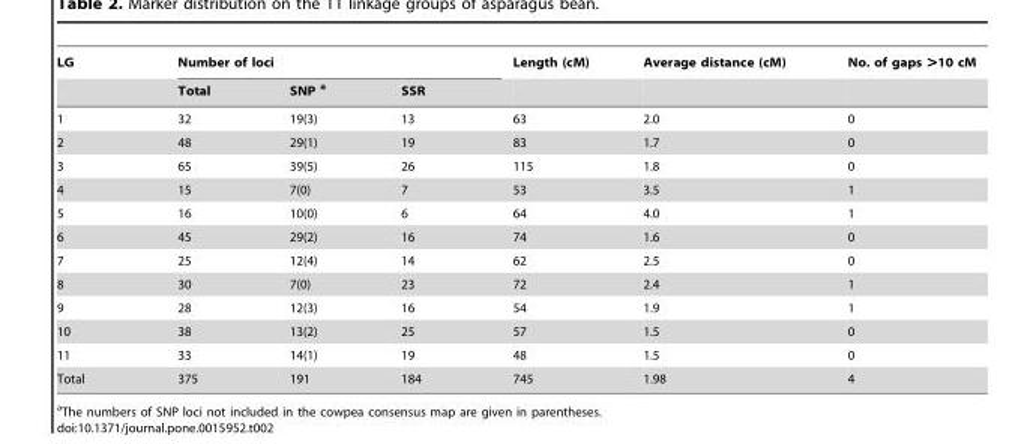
<table><thead><tr><td rowspan="2">LG</td><td colspan="3">Number of loci</td><td rowspan="2">Length (cM)</td><td rowspan="2">Average distance (cM)</td><td rowspan="2">No. of gaps &gt;10 cM</td></tr><tr><td>Total</td><td>SNP a</td><td>SSR</td></tr></thead><tbody><tr><td>1</td><td>32</td><td>19(3)</td><td>13</td><td>63</td><td>2.0</td><td>0</td></tr><tr><td>2</td><td>48</td><td>29(1)</td><td>19</td><td>83</td><td>1.7</td><td>0</td></tr><tr><td>3</td><td>65</td><td>39(5)</td><td>26</td><td>115</td><td>1.8</td><td>0</td></tr><tr><td>4</td><td>15</td><td>7(0)</td><td>7</td><td>53</td><td>3.5</td><td>1</td></tr><tr><td>5</td><td>16</td><td>10(0)</td><td>6</td><td>64</td><td>4.0</td><td>1</td></tr><tr><td>6</td><td>45</td><td>29(2)</td><td>16</td><td>74</td><td>1.6</td><td>0</td></tr><tr><td>7</td><td>25</td><td>12(4)</td><td>14</td><td>62</td><td>2.5</td><td>0</td></tr><tr><td>8</td><td>30</td><td>7(0)</td><td>23</td><td>72</td><td>2.4</td><td>1</td></tr><tr><td>9</td><td>28</td><td>12(3)</td><td>16</td><td>54</td><td>1.9</td><td>1</td></tr><tr><td>10</td><td>38</td><td>13(2)</td><td>25</td><td>57</td><td>1.5</td><td>0</td></tr><tr><td>11</td><td>33</td><td>14(1)</td><td>19</td><td>48</td><td>1.5</td><td>0</td></tr><tr><td>Total</td><td>375</td><td>191</td><td>184</td><td>745</td><td>1.98</td><td>4</td></tr></tbody></table>